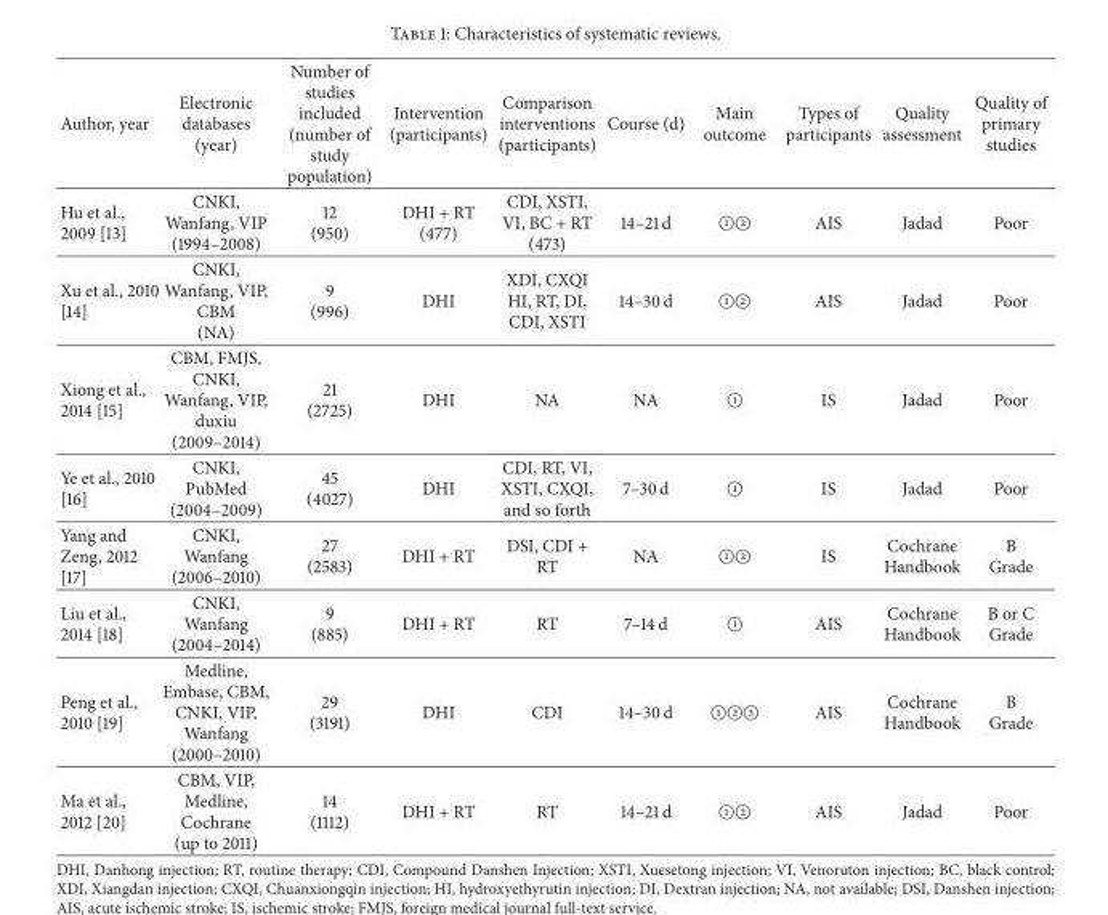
<table><thead><tr><td>Author, year</td><td>Electronic databases (year)</td><td>Number of studies included (number of study population)</td><td>Intervention (participants)</td><td>Comparison interventions (participants)</td><td>Course (d)</td><td>Main outcome</td><td>Types of participants</td><td>Quality assessment</td><td>Quality of primary studies</td></tr></thead><tbody><tr><td>Hu et al., 2009 [13]</td><td>CNKI, Wanfang, VIP (1994–2008)</td><td>12 (950)</td><td>DHI + RT (477)</td><td>CDI, XSTI, VI, BC + RT (473)</td><td>14–21 d</td><td>AB</td><td>AIS</td><td>Jadad</td><td>Poor</td></tr><tr><td>Xu et al., 2010 [14]</td><td>CNKI, Wanfang, VIP, CBM (NA)</td><td>9 (996)</td><td>DHI</td><td>XDI, CXQI HI, RT, DI, CDI, XSTI</td><td>14–30 d</td><td>AB</td><td>AIS</td><td>Jadad</td><td>Poor</td></tr><tr><td>Xiong et al., 2014 [15]</td><td>CBM, FMJS, CNKI, Wanfang, VIP, duxiu (2009–2014)</td><td>21 (2725)</td><td>DHI</td><td>NA</td><td>NA</td><td>A</td><td>IS</td><td>Jadad</td><td>Poor</td></tr><tr><td>Ye et al., 2010 [16]</td><td>CNKI, PubMed (2004–2009)</td><td>45 (4027)</td><td>DHI</td><td>CDI, RT, VI, XSTI, CXQI, and so forth</td><td>7–30 d</td><td>A</td><td>IS</td><td>Jadad</td><td>Poor</td></tr><tr><td>Yang and Zeng, 2012 [17]</td><td>CNKI, Wanfang (2006–2010)</td><td>27 (2583)</td><td>DHI + RT</td><td>DSI, CDI + RT</td><td>NA</td><td>AB</td><td>IS</td><td>Cochrane Handbook</td><td>B Grade</td></tr><tr><td>Liu et al., 2014 [18]</td><td>CNKI, Wanfang (2004–2014)</td><td>9 (885)</td><td>DHI + RT</td><td>RT</td><td>7–14 d</td><td>A</td><td>AIS</td><td>Cochrane Handbook</td><td>B or C Grade</td></tr><tr><td>Peng et al., 2010 [19]</td><td>Medline, Embase, CBM, CNKI, VIP, Wanfang (2000–2010)</td><td>29 (3191)</td><td>DHI</td><td>CDI</td><td>14–30 d</td><td>ABC</td><td>AIS</td><td>Cochrane Handbook</td><td>B Grade</td></tr><tr><td>Ma et al., 2012 [20]</td><td>CBM, VIP, Medline, Cochrane (up to 2011)</td><td>14 (1112)</td><td>DHI + RT</td><td>RT</td><td>14–21 d</td><td>AB</td><td>AIS</td><td>Jadad</td><td>Poor</td></tr></tbody></table>